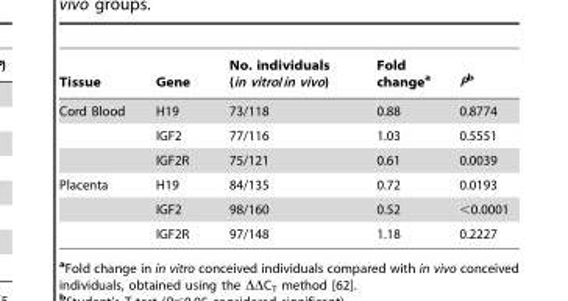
<table><thead><tr><td>Tissue</td><td>Gene</td><td>No. individuals (in vitro/in vivo)</td><td>Fold change<sup>a</sup></td><td>Pb</td></tr></thead><tbody><tr><td rowspan="3">Cord Blood</td><td>H19</td><td>73/118</td><td>0.88</td><td>0.8774</td></tr><tr><td>IGF2</td><td>77/116</td><td>1.03</td><td>0.5551</td></tr><tr><td>IGF2R</td><td>75/121</td><td>0.61</td><td>0.0039</td></tr><tr><td rowspan="3">Placenta</td><td>H19</td><td>84/135</td><td>0.72</td><td>0.0193</td></tr><tr><td>IGF2</td><td>98/160</td><td>0.52</td><td>&lt;0.0001</td></tr><tr><td>IGF2R</td><td>97/148</td><td>1.18</td><td>0.2227</td></tr></tbody></table>